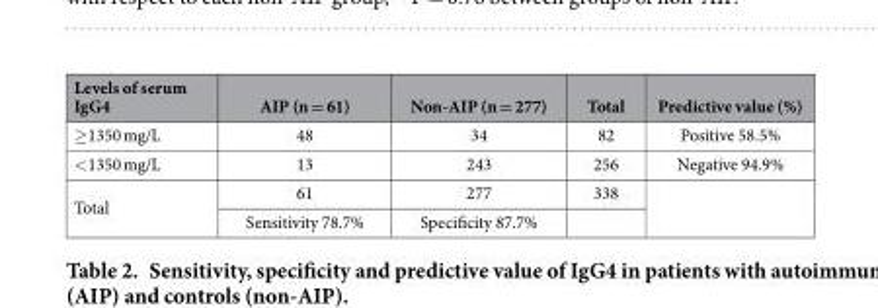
<table><thead><tr><td>Levels of serum IgG4</td><td>AIP (n = 61)</td><td>Non-AIP (n = 277)</td><td>Total</td><td>Predictive value (%)</td></tr></thead><tbody><tr><td>≥ 1350 mg/L</td><td>48</td><td>34</td><td>82</td><td>Positive 58.5%</td></tr><tr><td>&lt; 1350 mg/L</td><td>13</td><td>243</td><td>256</td><td>Negative 94.9%</td></tr><tr><td rowspan="2">Total</td><td>61</td><td>277</td><td>338</td><td rowspan="2"></td></tr><tr><td>Sensitivity 78.7%</td><td>Specificity 87.7%</td><td></td></tr></tbody></table>